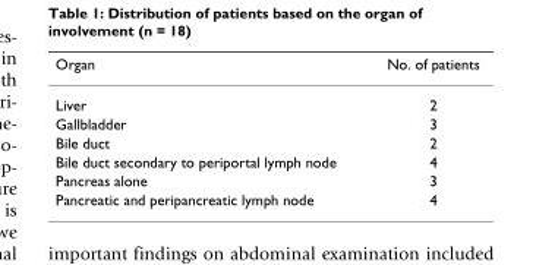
<table><thead><tr><td>Organ</td><td>No. of patients</td></tr></thead><tbody><tr><td>Liver</td><td>2</td></tr><tr><td>Gallbladder</td><td>3</td></tr><tr><td>Bile duct</td><td>2</td></tr><tr><td>Bile duct secondary to periportal lymph node</td><td>4</td></tr><tr><td>Pancreas alone</td><td>3</td></tr><tr><td>Pancreatic and peripancreatic lymph node</td><td>4</td></tr></tbody></table>